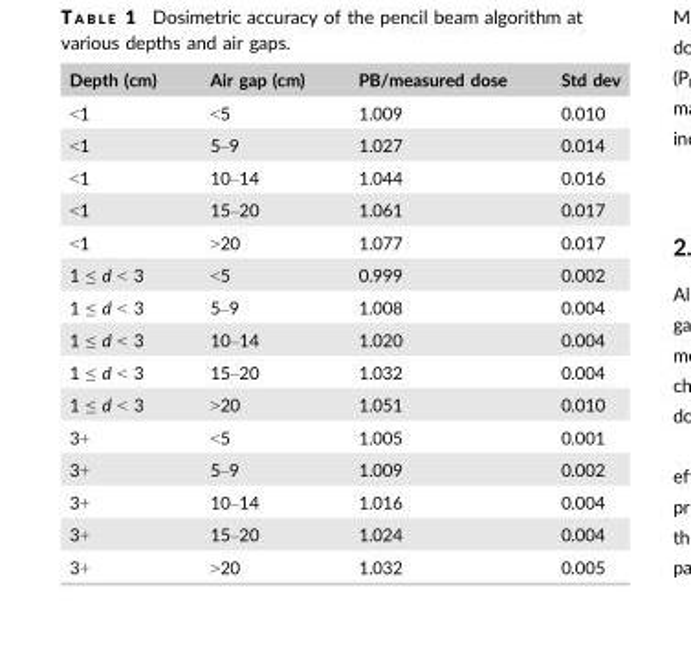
<table><thead><tr><td>Depth (cm)</td><td>Air gap (cm)</td><td>PB/measured dose</td><td>Std dev</td></tr></thead><tbody><tr><td>&lt;1</td><td>&lt;5</td><td>1.009</td><td>0.010</td></tr><tr><td>&lt;1</td><td>5–9</td><td>1.027</td><td>0.014</td></tr><tr><td>&lt;1</td><td>10–14</td><td>1.044</td><td>0.016</td></tr><tr><td>&lt;1</td><td>15–20</td><td>1.061</td><td>0.017</td></tr><tr><td>&lt;1</td><td>&gt;20</td><td>1.077</td><td>0.017</td></tr><tr><td>1 ≤ d &lt; 3</td><td>&lt;5</td><td>0.999</td><td>0.002</td></tr><tr><td>1 ≤ d &lt; 3</td><td>5–9</td><td>1.008</td><td>0.004</td></tr><tr><td>1 ≤ d &lt; 3</td><td>10–14</td><td>1.020</td><td>0.004</td></tr><tr><td>1 ≤ d &lt; 3</td><td>15–20</td><td>1.032</td><td>0.004</td></tr><tr><td>1 ≤ d &lt; 3</td><td>&gt;20</td><td>1.051</td><td>0.010</td></tr><tr><td>3+</td><td>&lt;5</td><td>1.005</td><td>0.001</td></tr><tr><td>3+</td><td>5–9</td><td>1.009</td><td>0.002</td></tr><tr><td>3+</td><td>10–14</td><td>1.016</td><td>0.004</td></tr><tr><td>3+</td><td>15–20</td><td>1.024</td><td>0.004</td></tr><tr><td>3+</td><td>&gt;20</td><td>1.032</td><td>0.005</td></tr></tbody></table>